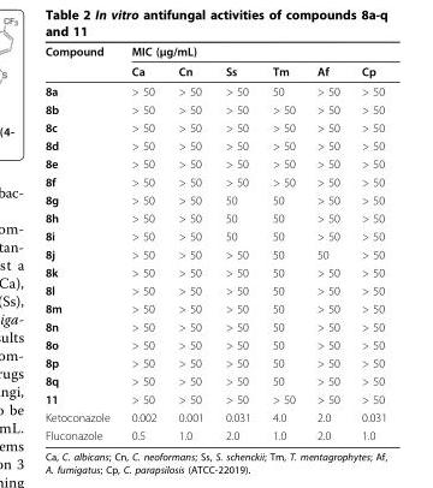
<table><thead><tr><td rowspan="2">Compound</td><td colspan="6">MIC (μg/mL)</td></tr><tr><td>Ca</td><td>Cn</td><td>Ss</td><td>Tm</td><td>Af</td><td>Cp</td></tr></thead><tbody><tr><td>8a</td><td>&gt; 50</td><td>&gt; 50</td><td>&gt; 50</td><td>50</td><td>&gt; 50</td><td>&gt; 50</td></tr><tr><td>8b</td><td>&gt; 50</td><td>&gt; 50</td><td>&gt; 50</td><td>&gt; 50</td><td>&gt; 50</td><td>&gt; 50</td></tr><tr><td>8c</td><td>&gt; 50</td><td>&gt; 50</td><td>&gt; 50</td><td>&gt; 50</td><td>&gt; 50</td><td>&gt; 50</td></tr><tr><td>8d</td><td>&gt; 50</td><td>&gt; 50</td><td>&gt; 50</td><td>&gt; 50</td><td>&gt; 50</td><td>&gt; 50</td></tr><tr><td>8e</td><td>&gt; 50</td><td>&gt; 50</td><td>&gt; 50</td><td>&gt; 50</td><td>&gt; 50</td><td>&gt; 50</td></tr><tr><td>8f</td><td>&gt; 50</td><td>&gt; 50</td><td>&gt; 50</td><td>&gt; 50</td><td>&gt; 50</td><td>&gt; 50</td></tr><tr><td>8g</td><td>&gt; 50</td><td>&gt; 50</td><td>50</td><td>50</td><td>&gt; 50</td><td>&gt; 50</td></tr><tr><td>8h</td><td>&gt; 50</td><td>&gt; 50</td><td>50</td><td>50</td><td>&gt; 50</td><td>&gt; 50</td></tr><tr><td>8i</td><td>&gt; 50</td><td>&gt; 50</td><td>50</td><td>50</td><td>&gt; 50</td><td>&gt; 50</td></tr><tr><td>8j</td><td>&gt; 50</td><td>&gt; 50</td><td>&gt; 50</td><td>50</td><td>50</td><td>&gt; 50</td></tr><tr><td>8k</td><td>&gt; 50</td><td>&gt; 50</td><td>&gt; 50</td><td>50</td><td>&gt; 50</td><td>&gt; 50</td></tr><tr><td>8l</td><td>&gt; 50</td><td>&gt; 50</td><td>&gt; 50</td><td>50</td><td>&gt; 50</td><td>&gt; 50</td></tr><tr><td>8m</td><td>&gt; 50</td><td>&gt; 50</td><td>&gt; 50</td><td>50</td><td>&gt; 50</td><td>&gt; 50</td></tr><tr><td>8n</td><td>&gt; 50</td><td>&gt; 50</td><td>&gt; 50</td><td>50</td><td>&gt; 50</td><td>&gt; 50</td></tr><tr><td>8o</td><td>&gt; 50</td><td>&gt; 50</td><td>&gt; 50</td><td>50</td><td>&gt; 50</td><td>&gt; 50</td></tr><tr><td>8p</td><td>&gt; 50</td><td>&gt; 50</td><td>&gt; 50</td><td>50</td><td>&gt; 50</td><td>&gt; 50</td></tr><tr><td>8q</td><td>&gt; 50</td><td>&gt; 50</td><td>&gt; 50</td><td>50</td><td>&gt; 50</td><td>&gt; 50</td></tr><tr><td>11</td><td>&gt; 50</td><td>&gt; 50</td><td>&gt; 50</td><td>&gt; 50</td><td>&gt; 50</td><td>&gt; 50</td></tr><tr><td>Ketoconazole</td><td>0.002</td><td>0.001</td><td>0.031</td><td>4.0</td><td>2.0</td><td>0.031</td></tr><tr><td>Fluconazole</td><td>0.5</td><td>1.0</td><td>2.0</td><td>1.0</td><td>2.0</td><td>1.0</td></tr></tbody></table>